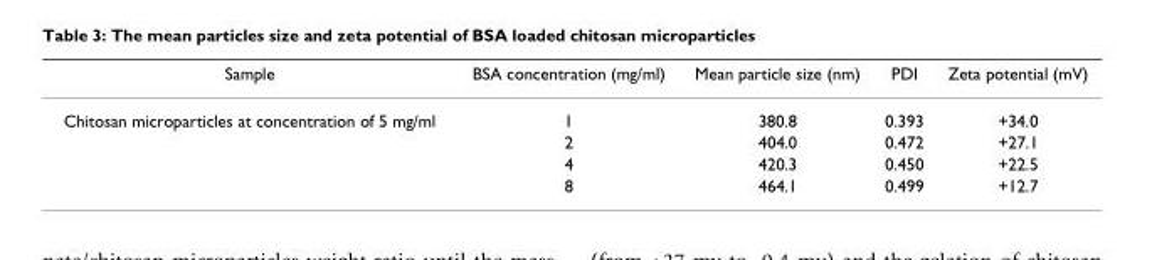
<table><thead><tr><td>Sample</td><td>BSA concentration (mg/ml)</td><td>Mean particle size (nm)</td><td>PDI</td><td>Zeta potential (mV)</td></tr></thead><tbody><tr><td rowspan="4">Chitosan microparticles at concentration of 5 mg/ml</td><td>1</td><td>380.8</td><td>0.393</td><td>+34.0</td></tr><tr><td>2</td><td>404.0</td><td>0.472</td><td>+27.1</td></tr><tr><td>4</td><td>420.3</td><td>0.450</td><td>+22.5</td></tr><tr><td>8</td><td>464.1</td><td>0.499</td><td>+12.7</td></tr></tbody></table>